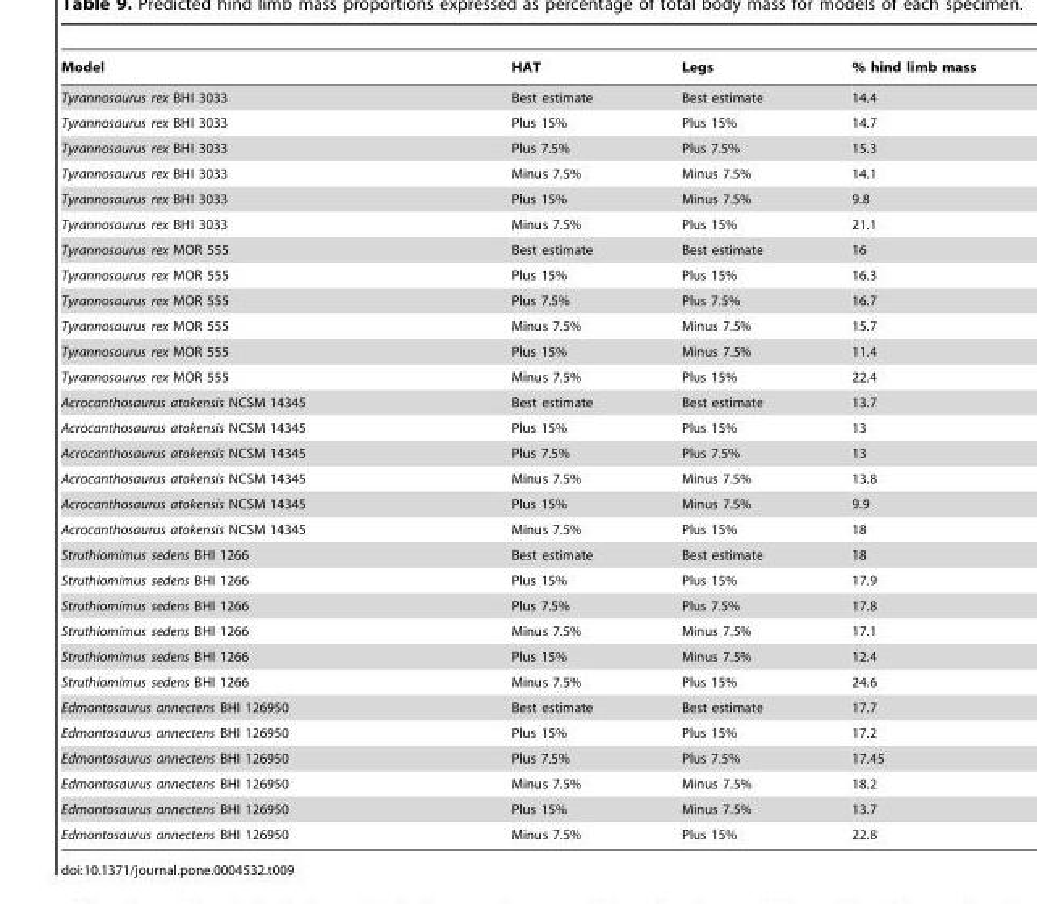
<table><thead><tr><td>Model</td><td>HAT</td><td>Legs</td><td>% hind limb mass</td></tr></thead><tbody><tr><td>Tyrannosaurus rex BHI 3033</td><td>Best estimate</td><td>Best estimate</td><td>14.4</td></tr><tr><td>Tyrannosaurus rex BHI 3033</td><td>Plus 15%</td><td>Plus 15%</td><td>14.7</td></tr><tr><td>Tyrannosaurus rex BHI 3033</td><td>Plus 7.5%</td><td>Plus 7.5%</td><td>15.3</td></tr><tr><td>Tyrannosaurus rex BHI 3033</td><td>Minus 7.5%</td><td>Minus 7.5%</td><td>14.1</td></tr><tr><td>Tyrannosaurus rex BHI 3033</td><td>Plus 15%</td><td>Minus 7.5%</td><td>9.8</td></tr><tr><td>Tyrannosaurus rex BHI 3033</td><td>Minus 7.5%</td><td>Plus 15%</td><td>21.1</td></tr><tr><td>Tyrannosaurus rex MOR 555</td><td>Best estimate</td><td>Best estimate</td><td>16</td></tr><tr><td>Tyrannosaurus rex MOR 555</td><td>Plus 15%</td><td>Plus 15%</td><td>16.3</td></tr><tr><td>Tyrannosaurus rex MOR 555</td><td>Plus 7.5%</td><td>Plus 7.5%</td><td>16.7</td></tr><tr><td>Tyrannosaurus rex MOR 555</td><td>Minus 7.5%</td><td>Minus 7.5%</td><td>15.7</td></tr><tr><td>Tyrannosaurus rex MOR 555</td><td>Plus 15%</td><td>Minus 7.5%</td><td>11.4</td></tr><tr><td>Tyrannosaurus rex MOR 555</td><td>Minus 7.5%</td><td>Plus 15%</td><td>22.4</td></tr><tr><td>Acrocanthosaurus atokensis NCSM 14345</td><td>Best estimate</td><td>Best estimate</td><td>13.7</td></tr><tr><td>Acrocanthosaurus atokensis NCSM 14345</td><td>Plus 15%</td><td>Plus 15%</td><td>13</td></tr><tr><td>Acrocanthosaurus atokensis NCSM 14345</td><td>Plus 7.5%</td><td>Plus 7.5%</td><td>13</td></tr><tr><td>Acrocanthosaurus atokensis NCSM 14345</td><td>Minus 7.5%</td><td>Minus 7.5%</td><td>13.8</td></tr><tr><td>Acrocanthosaurus atokensis NCSM 14345</td><td>Plus 15%</td><td>Minus 7.5%</td><td>9.9</td></tr><tr><td>Acrocanthosaurus atokensis NCSM 14345</td><td>Minus 7.5%</td><td>Plus 15%</td><td>18</td></tr><tr><td>Struthiomimus sedens BHI 1266</td><td>Best estimate</td><td>Best estimate</td><td>18</td></tr><tr><td>Struthiomimus sedens BHI 1266</td><td>Plus 15%</td><td>Plus 15%</td><td>17.9</td></tr><tr><td>Struthiomimus sedens BHI 1266</td><td>Plus 7.5%</td><td>Plus 7.5%</td><td>17.8</td></tr><tr><td>Struthiomimus sedens BHI 1266</td><td>Minus 7.5%</td><td>Minus 7.5%</td><td>17.1</td></tr><tr><td>Struthiomimus sedens BHI 1266</td><td>Plus 15%</td><td>Minus 7.5%</td><td>12.4</td></tr><tr><td>Struthiomimus sedens BHI 1266</td><td>Minus 7.5%</td><td>Plus 15%</td><td>24.6</td></tr><tr><td>Edmontosaurus annectens BHI 126950</td><td>Best estimate</td><td>Best estimate</td><td>17.7</td></tr><tr><td>Edmontosaurus annectens BHI 126950</td><td>Plus 15%</td><td>Plus 15%</td><td>17.2</td></tr><tr><td>Edmontosaurus annectens BHI 126950</td><td>Plus 7.5%</td><td>Plus 7.5%</td><td>17.45</td></tr><tr><td>Edmontosaurus annectens BHI 126950</td><td>Minus 7.5%</td><td>Minus 7.5%</td><td>18.2</td></tr><tr><td>Edmontosaurus annectens BHI 126950</td><td>Plus 15%</td><td>Minus 7.5%</td><td>13.7</td></tr><tr><td>Edmontosaurus annectens BHI 126950</td><td>Minus 7.5%</td><td>Plus 15%</td><td>22.8</td></tr></tbody></table>